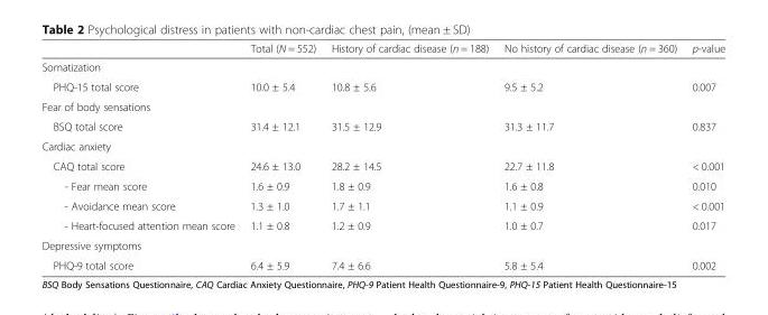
<table><thead><tr><td></td><td>Total (N = 552)</td><td>History of cardiac disease (n = 188)</td><td>No history of cardiac disease (n = 360)</td><td>p-value</td></tr></thead><tbody><tr><td colspan="5">Somatization</td></tr><tr><td>PHQ-15 total score</td><td>10.0 ± 5.4</td><td>10.8 ± 5.6</td><td>9.5 ± 5.2</td><td>0.007</td></tr><tr><td colspan="5">Fear of body sensations</td></tr><tr><td>BSQ total score</td><td>31.4 ± 12.1</td><td>31.5 ± 12.9</td><td>31.3 ± 11.7</td><td>0.837</td></tr><tr><td colspan="5">Cardiac anxiety</td></tr><tr><td>CAQ total score</td><td>24.6 ± 13.0</td><td>28.2 ± 14.5</td><td>22.7 ± 11.8</td><td>&lt; 0.001</td></tr><tr><td>- Fear mean score</td><td>1.6 ± 0.9</td><td>1.8 ± 0.9</td><td>1.6 ± 0.8</td><td>0.010</td></tr><tr><td>- Avoidance mean score</td><td>1.3 ± 1.0</td><td>1.7 ± 1.1</td><td>1.1 ± 0.9</td><td>&lt; 0.001</td></tr><tr><td>- Heart-focused attention mean score</td><td>1.1 ± 0.8</td><td>1.2 ± 0.9</td><td>1.0 ± 0.7</td><td>0.017</td></tr><tr><td colspan="5">Depressive symptoms</td></tr><tr><td>PHQ-9 total score</td><td>6.4 ± 5.9</td><td>7.4 ± 6.6</td><td>5.8 ± 5.4</td><td>0.002</td></tr></tbody></table>